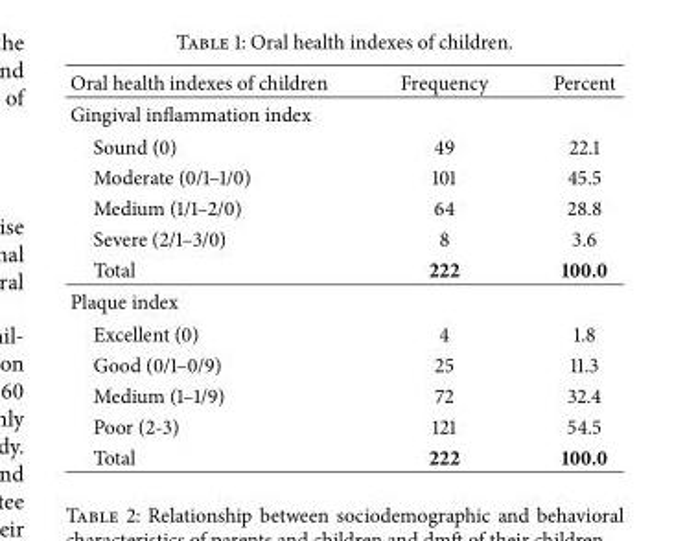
<table><thead><tr><td>Oral health indexes of children</td><td>Frequency</td><td>Percent</td></tr></thead><tbody><tr><td colspan="3">Gingival inflammation index</td></tr><tr><td>Sound (0)</td><td>49</td><td>22.1</td></tr><tr><td>Moderate (0/1–1/0)</td><td>101</td><td>45.5</td></tr><tr><td>Medium (1/1–2/0)</td><td>64</td><td>28.8</td></tr><tr><td>Severe (2/1–3/0)</td><td>8</td><td>3.6</td></tr><tr><td>Total</td><td>222</td><td>100.0</td></tr><tr><td colspan="3">Plaque index</td></tr><tr><td>Excellent (0)</td><td>4</td><td>1.8</td></tr><tr><td>Good (0/1–0/9)</td><td>25</td><td>11.3</td></tr><tr><td>Medium (1–1/9)</td><td>72</td><td>32.4</td></tr><tr><td>Poor (2-3)</td><td>121</td><td>54.5</td></tr><tr><td>Total</td><td>222</td><td>100.0</td></tr></tbody></table>